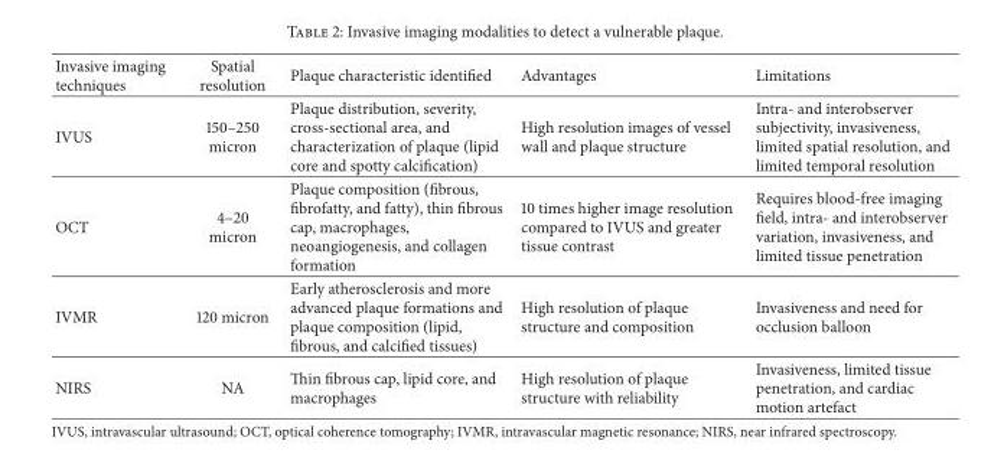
<table><thead><tr><td>Invasive imaging techniques</td><td>Spatial resolution</td><td>Plaque characteristic identified</td><td>Advantages</td><td>Limitations</td></tr></thead><tbody><tr><td>IVUS</td><td>150–250 micron</td><td>Plaque distribution, severity, cross-sectional area, and characterization of plaque (lipid core and spotty calcification)</td><td>High resolution images of vessel wall and plaque structure</td><td>Intra- and interobserver subjectivity, invasiveness, limited spatial resolution, and limited temporal resolution</td></tr><tr><td>OCT</td><td>4–20 micron</td><td>Plaque composition (fibrous, fibrofatty, and fatty), thin fibrous cap, macrophages, neoangiogenesis, and collagen formation</td><td>10 times higher image resolution compared to IVUS and greater tissue contrast</td><td>Requires blood-free imaging field, intra- and interobserver variation, invasiveness, and limited tissue penetration</td></tr><tr><td>IVMR</td><td>120 micron</td><td>Early atherosclerosis and more advanced plaque formations and plaque composition (lipid, fibrous, and calcified tissues)</td><td>High resolution of plaque structure and composition</td><td>Invasiveness and need for occlusion balloon</td></tr><tr><td>NIRS</td><td>NA</td><td>Thin fibrous cap, lipid core, and macrophages</td><td>High resolution of plaque structure with reliability</td><td>Invasiveness, limited tissue penetration, and cardiac motion artefact</td></tr></tbody></table>